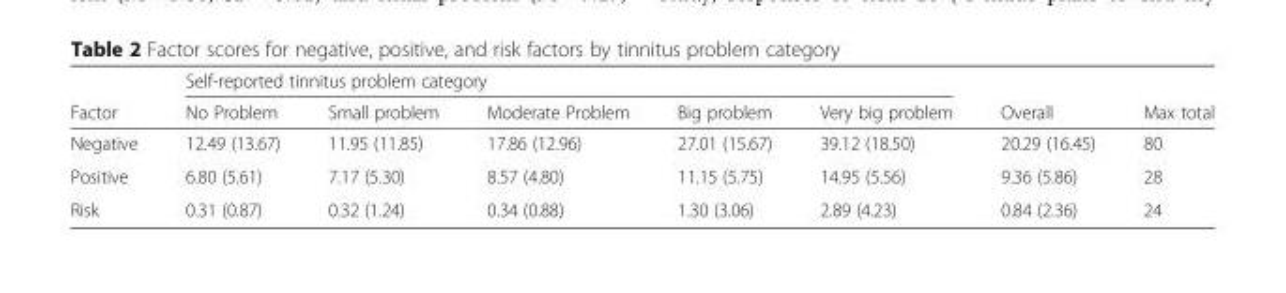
<table><thead><tr><td rowspan="2">Factor</td><td colspan="5">Self-reported tinnitus problem category</td><td rowspan="2">Overall</td><td rowspan="2">Max total</td></tr><tr><td>No Problem</td><td>Small problem</td><td>Moderate Problem</td><td>Big problem</td><td>Very big problem</td></tr></thead><tbody><tr><td>Negative</td><td>12.49 (13.67)</td><td>11.95 (11.85)</td><td>17.86 (12.96)</td><td>27.01 (15.67)</td><td>39.12 (18.50)</td><td>20.29 (16.45)</td><td>80</td></tr><tr><td>Positive</td><td>6.80 (5.61)</td><td>7.17 (5.30)</td><td>8.57 (4.80)</td><td>11.15 (5.75)</td><td>14.95 (5.56)</td><td>9.36 (5.86)</td><td>28</td></tr><tr><td>Risk</td><td>0.31 (0.87)</td><td>0.32 (1.24)</td><td>0.34 (0.88)</td><td>1.30 (3.06)</td><td>2.89 (4.23)</td><td>0.84 (2.36)</td><td>24</td></tr></tbody></table>